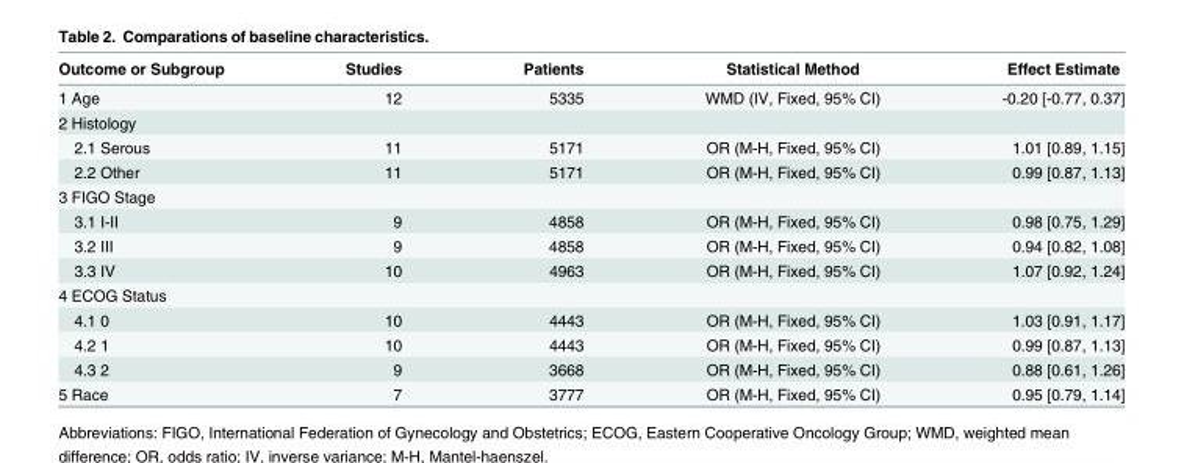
<table><thead><tr><td>Outcome or Subgroup</td><td>Studies</td><td>Patients</td><td>Statistical Method</td><td>Effect Estimate</td></tr></thead><tbody><tr><td>1 Age</td><td>12</td><td>5335</td><td>WMD (IV, Fixed, 95% CI)</td><td>-0.20 [-0.77, 0.37]</td></tr><tr><td colspan="5">2 Histology</td></tr><tr><td>2.1 Serous</td><td>11</td><td>5171</td><td>OR (M-H, Fixed, 95% CI)</td><td>1.01 [0.89, 1.15]</td></tr><tr><td>2.2 Other</td><td>11</td><td>5171</td><td>OR (M-H, Fixed, 95% CI)</td><td>0.99 [0.87, 1.13]</td></tr><tr><td colspan="5">3 FIGO Stage</td></tr><tr><td>3.1 I-II</td><td>9</td><td>4858</td><td>OR (M-H, Fixed, 95% CI)</td><td>0.98 [0.75, 1.29]</td></tr><tr><td>3.2 III</td><td>9</td><td>4858</td><td>OR (M-H, Fixed, 95% CI)</td><td>0.94 [0.82, 1.08]</td></tr><tr><td>3.3 IV</td><td>10</td><td>4963</td><td>OR (M-H, Fixed, 95% CI)</td><td>1.07 [0.92, 1.24]</td></tr><tr><td colspan="5">4 ECOG Status</td></tr><tr><td>4.1 0</td><td>10</td><td>4443</td><td>OR (M-H, Fixed, 95% CI)</td><td>1.03 [0.91, 1.17]</td></tr><tr><td>4.2 1</td><td>10</td><td>4443</td><td>OR (M-H, Fixed, 95% CI)</td><td>0.99 [0.87, 1.13]</td></tr><tr><td>4.3 2</td><td>9</td><td>3668</td><td>OR (M-H, Fixed, 95% CI)</td><td>0.88 [0.61, 1.26]</td></tr><tr><td>5 Race</td><td>7</td><td>3777</td><td>OR (M-H, Fixed, 95% CI)</td><td>0.95 [0.79, 1.14]</td></tr></tbody></table>